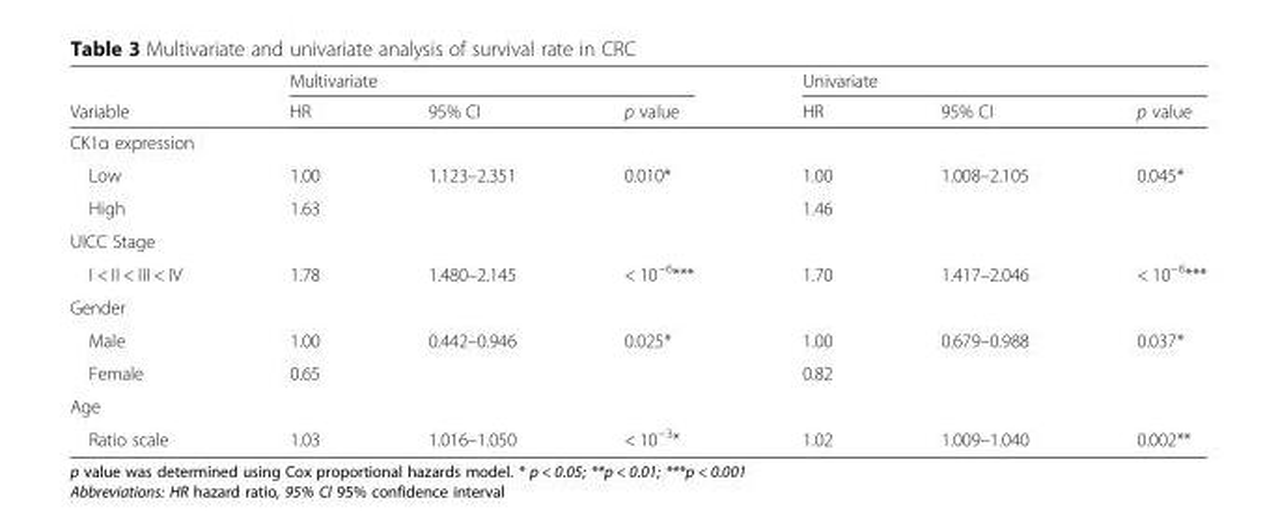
<table><thead><tr><td rowspan="2">Variable</td><td colspan="3">Multivariate</td><td colspan="3">Univariate</td></tr><tr><td>HR</td><td>95% CI</td><td>p value</td><td>HR</td><td>95% CI</td><td>p value</td></tr></thead><tbody><tr><td colspan="7">CK1α expression</td></tr><tr><td>Low</td><td>1.00</td><td rowspan="2">1.123–2.351</td><td rowspan="2">0.010*</td><td>1.00</td><td rowspan="2">1.008–2.105</td><td rowspan="2">0.045*</td></tr><tr><td>High</td><td>1.63</td><td>1.46</td></tr><tr><td colspan="7">UICC Stage</td></tr><tr><td>I &lt; II &lt; III &lt; IV</td><td>1.78</td><td>1.480–2.145</td><td>&lt; 10<sup>−6</sup>***</td><td>1.70</td><td>1.417–2.046</td><td>&lt; 10<sup>−6</sup>***</td></tr><tr><td colspan="7">Gender</td></tr><tr><td>Male</td><td>1.00</td><td rowspan="2">0.442–0.946</td><td rowspan="2">0.025*</td><td>1.00</td><td rowspan="2">0.679–0.988</td><td rowspan="2">0.037*</td></tr><tr><td>Female</td><td>0.65</td><td>0.82</td></tr><tr><td colspan="7">Age</td></tr><tr><td>Ratio scale</td><td>1.03</td><td>1.016–1.050</td><td>&lt; 10<sup>−3</sup>*</td><td>1.02</td><td>1.009–1.040</td><td>0.002**</td></tr></tbody></table>